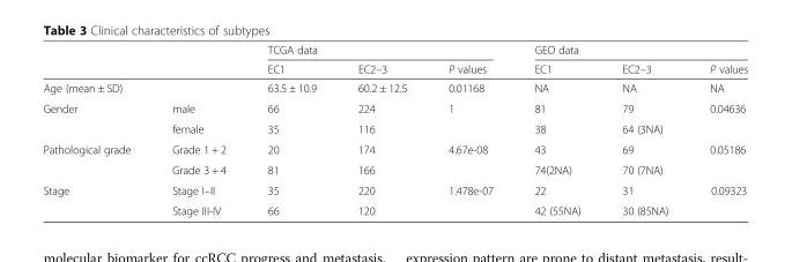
<table><thead><tr><td rowspan="2"></td><td rowspan="2"></td><td colspan="3">TCGA data</td><td colspan="3">GEO data</td></tr><tr><td>EC1</td><td>EC2–3</td><td>P values</td><td>EC1</td><td>EC2–3</td><td>P values</td></tr></thead><tbody><tr><td colspan="2">Age (mean ± SD)</td><td>63.5 ± 10.9</td><td>60.2 ± 12.5</td><td>0.01168</td><td>NA</td><td>NA</td><td>NA</td></tr><tr><td rowspan="2">Gender</td><td>male</td><td>66</td><td>224</td><td rowspan="2">1</td><td>81</td><td>79</td><td rowspan="2">0.04636</td></tr><tr><td>female</td><td>35</td><td>116</td><td>38</td><td>64 (3NA)</td></tr><tr><td rowspan="2">Pathological grade</td><td>Grade 1 + 2</td><td>20</td><td>174</td><td rowspan="2">4.67e-08</td><td>43</td><td>69</td><td rowspan="2">0.05186</td></tr><tr><td>Grade 3 + 4</td><td>81</td><td>166</td><td>74(2NA)</td><td>70 (7NA)</td></tr><tr><td rowspan="2">Stage</td><td>Stage I–II</td><td>35</td><td>220</td><td rowspan="2">1.478e-07</td><td>22</td><td>31</td><td rowspan="2">0.09323</td></tr><tr><td>Stage III-IV</td><td>66</td><td>120</td><td>42 (55NA)</td><td>30 (85NA)</td></tr></tbody></table>